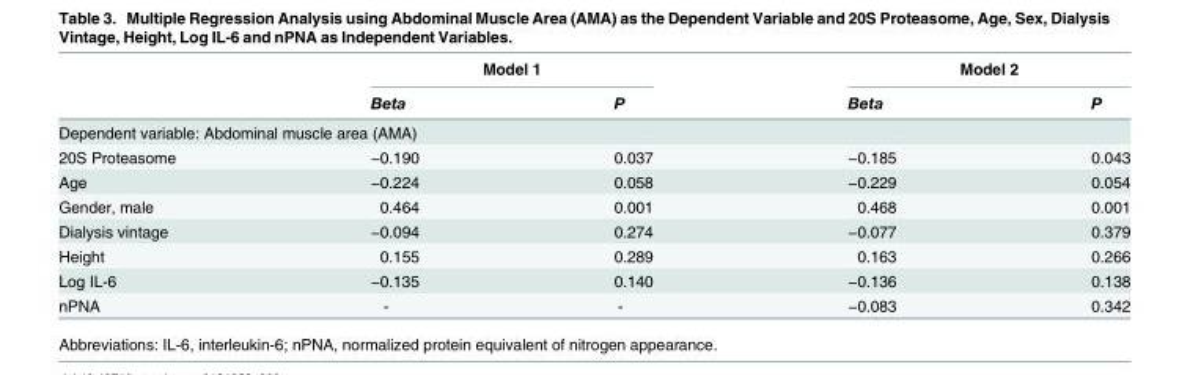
<table><thead><tr><td rowspan="2"></td><td colspan="2">Model 1</td><td colspan="2">Model 2</td></tr><tr><td>Beta</td><td>P</td><td>Beta</td><td>P</td></tr></thead><tbody><tr><td colspan="5">Dependent variable: Abdominal muscle area (AMA)</td></tr><tr><td>20S Proteasome</td><td>−0.190</td><td>0.037</td><td>−0.185</td><td>0.043</td></tr><tr><td>Age</td><td>−0.224</td><td>0.058</td><td>−0.229</td><td>0.054</td></tr><tr><td>Gender, male</td><td>0.464</td><td>0.001</td><td>0.468</td><td>0.001</td></tr><tr><td>Dialysis vintage</td><td>−0.094</td><td>0.274</td><td>−0.077</td><td>0.379</td></tr><tr><td>Height</td><td>0.155</td><td>0.289</td><td>0.163</td><td>0.266</td></tr><tr><td>Log IL-6</td><td>−0.135</td><td>0.140</td><td>−0.136</td><td>0.138</td></tr><tr><td>nPNA</td><td>-</td><td>-</td><td>−0.083</td><td>0.342</td></tr></tbody></table>